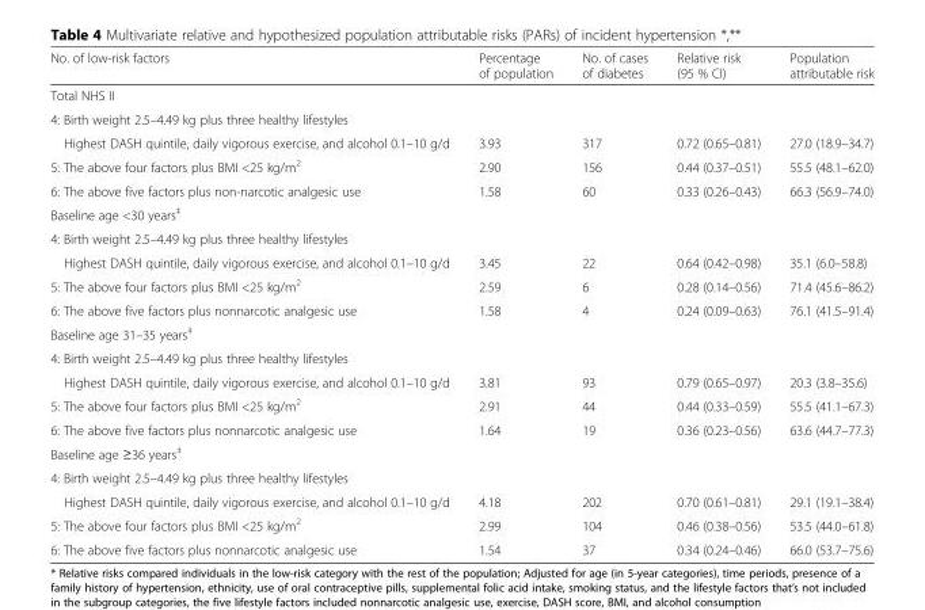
<table><thead><tr><td>No. of low-risk factors</td><td>Percentage of population</td><td>No. of cases of diabetes</td><td>Relative risk (95 % CI)</td><td>Population attributable risk</td></tr></thead><tbody><tr><td colspan="5">Total NHS II</td></tr><tr><td colspan="5">4: Birth weight 2.5–4.49 kg plus three healthy lifestyles</td></tr><tr><td>Highest DASH quintile, daily vigorous exercise, and alcohol 0.1–10 g/d</td><td>3.93</td><td>317</td><td>0.72 (0.65–0.81)</td><td>27.0 (18.9–34.7)</td></tr><tr><td>5: The above four factors plus BMI &lt;25 kg/m<sup>2</sup></td><td>2.90</td><td>156</td><td>0.44 (0.37–0.51)</td><td>55.5 (48.1–62.0)</td></tr><tr><td>6: The above five factors plus non-narcotic analgesic use</td><td>1.58</td><td>60</td><td>0.33 (0.26–0.43)</td><td>66.3 (56.9–74.0)</td></tr><tr><td colspan="5">Baseline age &lt;30 years<sup>‡</sup></td></tr><tr><td colspan="5">4: Birth weight 2.5–4.49 kg plus three healthy lifestyles</td></tr><tr><td>Highest DASH quintile, daily vigorous exercise, and alcohol 0.1–10 g/d</td><td>3.45</td><td>22</td><td>0.64 (0.42–0.98)</td><td>35.1 (6.0–58.8)</td></tr><tr><td>5: The above four factors plus BMI &lt;25 kg/m<sup>2</sup></td><td>2.59</td><td>6</td><td>0.28 (0.14–0.56)</td><td>71.4 (45.6–86.2)</td></tr><tr><td>6: The above five factors plus nonnarcotic analgesic use</td><td>1.58</td><td>4</td><td>0.24 (0.09–0.63)</td><td>76.1 (41.5–91.4)</td></tr><tr><td colspan="5">Baseline age 31–35 years<sup>‡</sup></td></tr><tr><td colspan="5">4: Birth weight 2.5–4.49 kg plus three healthy lifestyles</td></tr><tr><td>Highest DASH quintile, daily vigorous exercise, and alcohol 0.1–10 g/d</td><td>3.81</td><td>93</td><td>0.79 (0.65–0.97)</td><td>20.3 (3.8–35.6)</td></tr><tr><td>5: The above four factors plus BMI &lt;25 kg/m<sup>2</sup></td><td>2.91</td><td>44</td><td>0.44 (0.33–0.59)</td><td>55.5 (41.1–67.3)</td></tr><tr><td>6: The above five factors plus nonnarcotic analgesic use</td><td>1.64</td><td>19</td><td>0.36 (0.23–0.56)</td><td>63.6 (44.7–77.3)</td></tr><tr><td colspan="5">Baseline age ≥36 years<sup>‡</sup></td></tr><tr><td colspan="5">4: Birth weight 2.5–4.49 kg plus three healthy lifestyles</td></tr><tr><td>Highest DASH quintile, daily vigorous exercise, and alcohol 0.1–10 g/d</td><td>4.18</td><td>202</td><td>0.70 (0.61–0.81)</td><td>29.1 (19.1–38.4)</td></tr><tr><td>5: The above four factors plus BMI &lt;25 kg/m<sup>2</sup></td><td>2.99</td><td>104</td><td>0.46 (0.38–0.56)</td><td>53.5 (44.0–61.8)</td></tr><tr><td>6: The above five factors plus nonnarcotic analgesic use</td><td>1.54</td><td>37</td><td>0.34 (0.24–0.46)</td><td>66.0 (53.7–75.6)</td></tr></tbody></table>